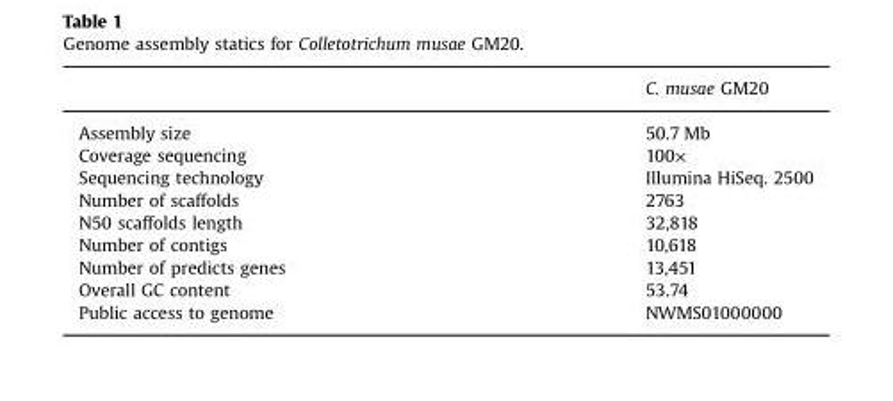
<table><thead><tr><td></td><td>C. musae GM20</td></tr></thead><tbody><tr><td>Assembly size</td><td>50.7 Mb</td></tr><tr><td>Coverage sequencing</td><td>100×</td></tr><tr><td>Sequencing technology</td><td>Illumina HiSeq. 2500</td></tr><tr><td>Number of scaffolds</td><td>2763</td></tr><tr><td>N50 scaffolds length</td><td>32,818</td></tr><tr><td>Number of contigs</td><td>10,618</td></tr><tr><td>Number of predicts genes</td><td>13,451</td></tr><tr><td>Overall GC content</td><td>53.74</td></tr><tr><td>Public access to genome</td><td>NWMS01000000</td></tr></tbody></table>